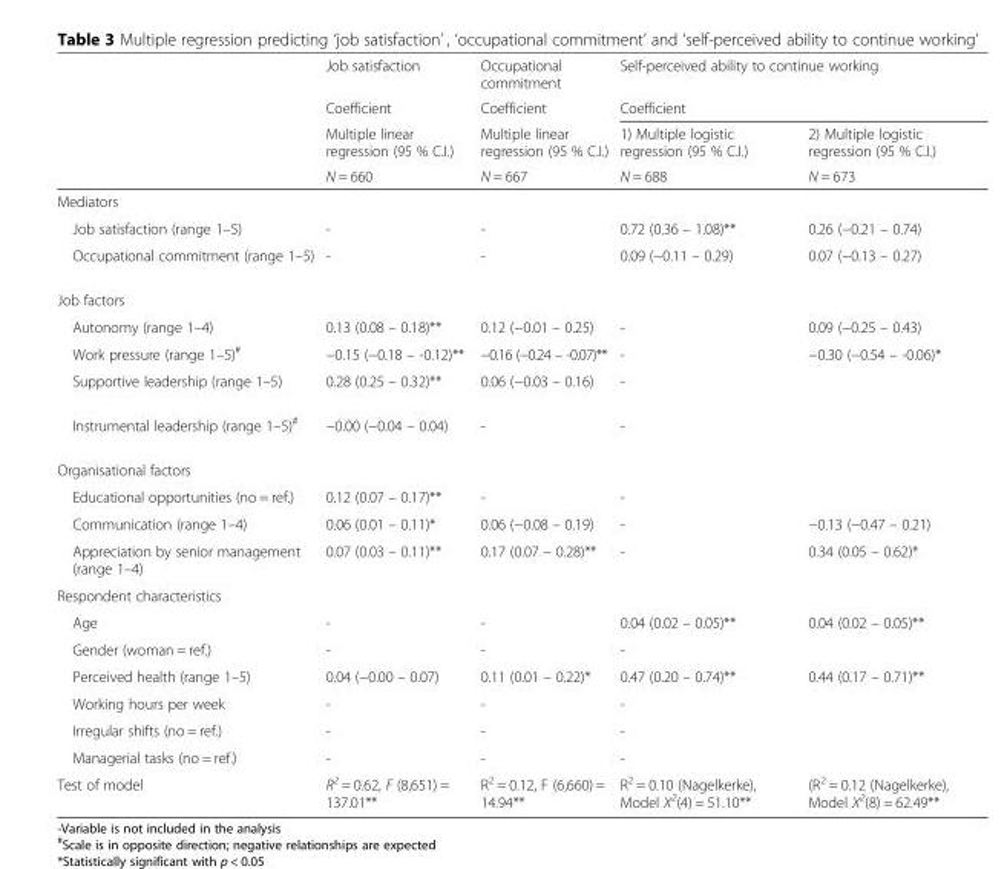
<table><thead><tr><td rowspan="4"></td><td rowspan="4">Job satisfaction Coefficient Multiple linear regression (95 % C.I.) N = 660</td><td rowspan="4">Occupational commitment Coefficient Multiple linear regression (95 % C.I.) N = 667</td><td rowspan="2" colspan="2">Self-perceived ability to continue working Coefficient</td></tr><tr></tr><tr><td rowspan="2">1) Multiple logistic regression (95 % C.I.) N = 688</td><td rowspan="2">2) Multiple logistic regression (95 % C.I.) N = 673</td></tr><tr></tr></thead><tbody><tr><td colspan="5">Mediators</td></tr><tr><td>Job satisfaction (range 1–5)</td><td>-</td><td>-</td><td>0.72 (0.36 – 1.08)**</td><td>0.26 (−0.21 – 0.74)</td></tr><tr><td>Occupational commitment (range 1–5)</td><td>-</td><td>-</td><td>0.09 (−0.11 – 0.29)</td><td>0.07 (−0.13 – 0.27)</td></tr><tr><td colspan="5">Job factors</td></tr><tr><td>Autonomy (range 1–4)</td><td>0.13 (0.08 – 0.18)**</td><td>0.12 (−0.01 – 0.25)</td><td>-</td><td>0.09 (−0.25 – 0.43)</td></tr><tr><td>Work pressure (range 1–5)<sup>#</sup></td><td>−0.15 (−0.18 – -0.12)**</td><td>−0.16 (−0.24 – -0.07)**</td><td>-</td><td>−0.30 (−0.54 – -0.06)*</td></tr><tr><td>Supportive leadership (range 1–5)</td><td>0.28 (0.25 – 0.32)**</td><td>0.06 (−0.03 – 0.16)</td><td>-</td><td></td></tr><tr><td>Instrumental leadership (range 1–5)<sup>#</sup></td><td>−0.00 (−0.04 – 0.04)</td><td>-</td><td>-</td><td></td></tr><tr><td colspan="5">Organisational factors</td></tr><tr><td>Educational opportunities (no = ref.)</td><td>0.12 (0.07 – 0.17)**</td><td>-</td><td>-</td><td></td></tr><tr><td>Communication (range 1–4)</td><td>0.06 (0.01 – 0.11)*</td><td>0.06 (−0.08 – 0.19)</td><td>-</td><td>−0.13 (−0.47 – 0.21)</td></tr><tr><td>Appreciation by senior management (range 1–4)</td><td>0.07 (0.03 – 0.11)**</td><td>0.17 (0.07 – 0.28)**</td><td>-</td><td>0.34 (0.05 – 0.62)*</td></tr><tr><td colspan="5">Respondent characteristics</td></tr><tr><td>Age</td><td>-</td><td>-</td><td>0.04 (0.02 – 0.05)**</td><td>0.04 (0.02 – 0.05)**</td></tr><tr><td>Gender (woman = ref.)</td><td>-</td><td>-</td><td>-</td><td></td></tr><tr><td>Perceived health (range 1–5)</td><td>0.04 (−0.00 – 0.07)</td><td>0.11 (0.01 – 0.22)*</td><td>0.47 (0.20 – 0.74)**</td><td>0.44 (0.17 – 0.71)**</td></tr><tr><td>Working hours per week</td><td>-</td><td>-</td><td>-</td><td></td></tr><tr><td>Irregular shifts (no = ref.)</td><td>-</td><td>-</td><td>-</td><td></td></tr><tr><td>Managerial tasks (no = ref.)</td><td>-</td><td>-</td><td>-</td><td></td></tr><tr><td>Test of model</td><td>R<sup>2</sup> = 0.62, F (8,651) = 137.01**</td><td>R<sup>2</sup> = 0.12, F (6,660) = 14.94**</td><td>R<sup>2</sup> = 0.10 (Nagelkerke), Model X<sup>2</sup>(4) = 51.10**</td><td>(R<sup>2</sup> = 0.12 (Nagelkerke), Model X<sup>2</sup>(8) = 62.49**</td></tr></tbody></table>